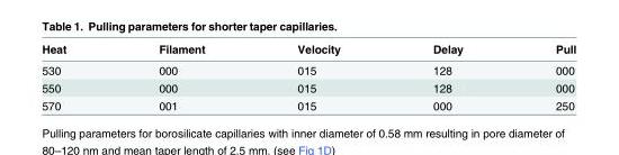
<table><thead><tr><td>Heat</td><td>Filament</td><td>Velocity</td><td>Delay</td><td>Pull</td></tr></thead><tbody><tr><td>530</td><td>000</td><td>015</td><td>128</td><td>000</td></tr><tr><td>550</td><td>000</td><td>015</td><td>128</td><td>000</td></tr><tr><td>570</td><td>001</td><td>015</td><td>000</td><td>250</td></tr></tbody></table>